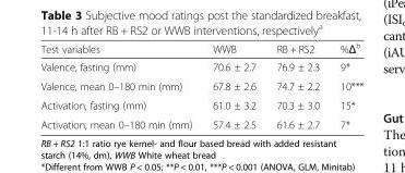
<table><thead><tr><td>Test variables</td><td>WWB</td><td>RB + RS2</td><td>%Δ<sup>b</sup></td></tr></thead><tbody><tr><td>Valence, fasting (mm)</td><td>70.6 ± 2.7</td><td>76.9 ± 2.3</td><td>9*</td></tr><tr><td>Valence, mean 0–180 min (mm)</td><td>67.8 ± 2.6</td><td>74.7 ± 2.2</td><td>10***</td></tr><tr><td>Activation, fasting (mm)</td><td>61.0 ± 3.2</td><td>70.3 ± 3.0</td><td>15*</td></tr><tr><td>Activation, mean 0–180 min (mm)</td><td>57.4 ± 2.5</td><td>61.6 ± 2.7</td><td>7*</td></tr></tbody></table>